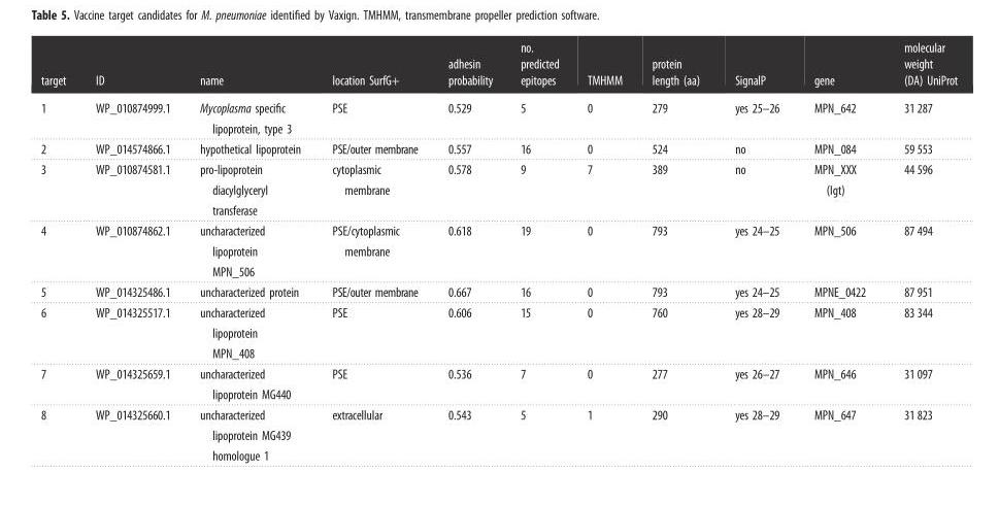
<table><thead><tr><td>target</td><td>ID</td><td>name</td><td>location SurfG+</td><td>adhesin probability</td><td>no. predicted epitopes</td><td>TMHMM</td><td>protein length (aa)</td><td>SignalP</td><td>gene</td><td>molecular weight (DA) UniProt</td></tr></thead><tbody><tr><td>1</td><td>WP_010874999.1</td><td>Mycoplasma specific lipoprotein, type 3</td><td>PSE</td><td>0.529</td><td>5</td><td>0</td><td>279</td><td>yes 25–26</td><td>MPN_642</td><td>31 287</td></tr><tr><td>2</td><td>WP_014574866.1</td><td>hypothetical lipoprotein</td><td>PSE/outer membrane</td><td>0.557</td><td>16</td><td>0</td><td>524</td><td>no</td><td>MPN_084</td><td>59 553</td></tr><tr><td>3</td><td>WP_010874581.1</td><td>pro-lipoprotein diacylglyceryl transferase</td><td>cytoplasmic membrane</td><td>0.578</td><td>9</td><td>7</td><td>389</td><td>no</td><td>MPN_XXX (Igt)</td><td>44 596</td></tr><tr><td>4</td><td>WP_010874862.1</td><td>uncharacterized lipoprotein MPN_506</td><td>PSE/cytoplasmic membrane</td><td>0.618</td><td>19</td><td>0</td><td>793</td><td>yes 24–25</td><td>MPN_506</td><td>87 494</td></tr><tr><td>5</td><td>WP_014325486.1</td><td>uncharacterized protein</td><td>PSE/outer membrane</td><td>0.667</td><td>16</td><td>0</td><td>793</td><td>yes 24–25</td><td>MPNE_0422</td><td>87 951</td></tr><tr><td>6</td><td>WP_014325517.1</td><td>uncharacterized lipoprotein MPN_408</td><td>PSE</td><td>0.606</td><td>15</td><td>0</td><td>760</td><td>yes 28–29</td><td>MPN_408</td><td>83 344</td></tr><tr><td>7</td><td>WP_014325659.1</td><td>uncharacterized lipoprotein MG440</td><td>PSE</td><td>0.536</td><td>7</td><td>0</td><td>277</td><td>yes 26–27</td><td>MPN_646</td><td>31 097</td></tr><tr><td>8</td><td>WP_014325660.1</td><td>uncharacterized lipoprotein MG439 homologue 1</td><td>extracellular</td><td>0.543</td><td>5</td><td>1</td><td>290</td><td>yes 28–29</td><td>MPN_647</td><td>31 823</td></tr></tbody></table>